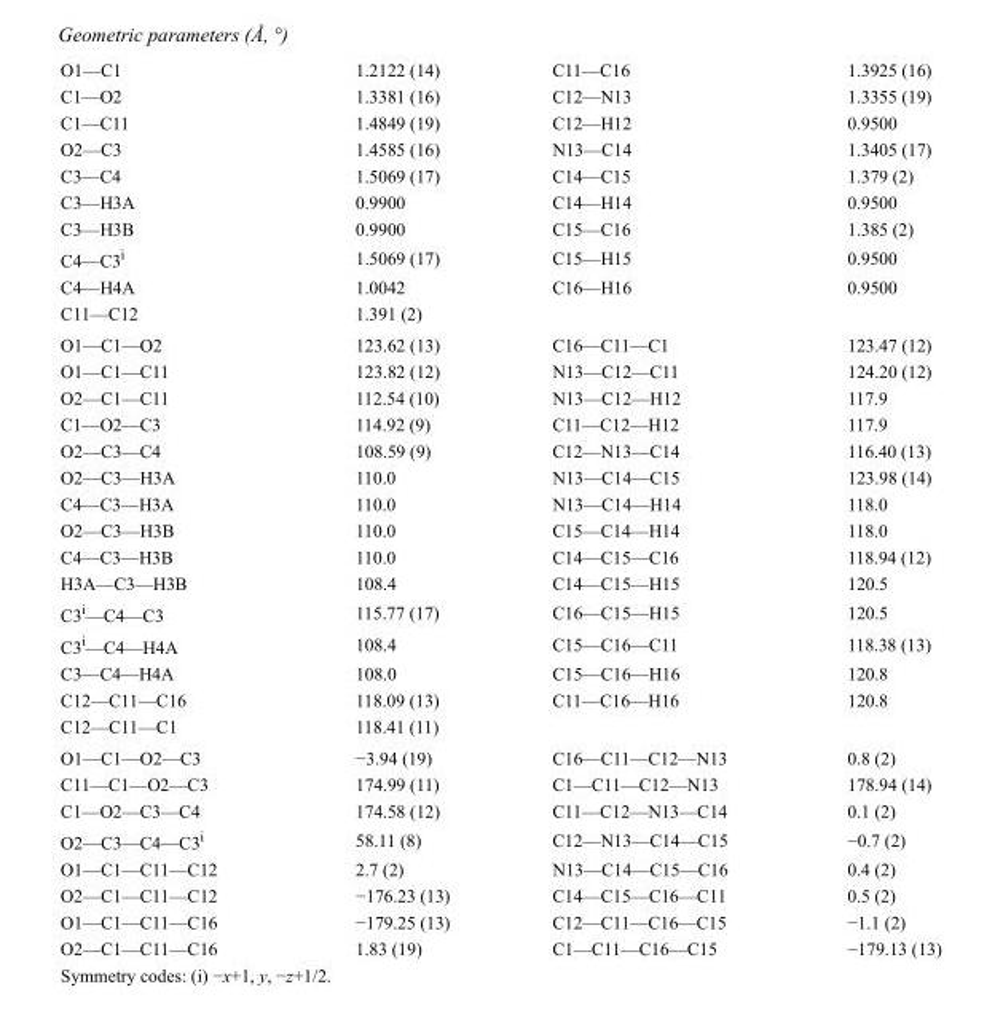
<table><tbody><tr><td>O1—C1</td><td>1.2122 (14)</td><td>C11—C16</td><td>1.3925 (16)</td></tr><tr><td>C1—O2</td><td>1.3381 (16)</td><td>C12—N13</td><td>1.3355 (19)</td></tr><tr><td>C1—C11</td><td>1.4849 (19)</td><td>C12—H12</td><td>0.9500</td></tr><tr><td>O2—C3</td><td>1.4585 (16)</td><td>N13—C14</td><td>1.3405 (17)</td></tr><tr><td>C3—C4</td><td>1.5069 (17)</td><td>C14—C15</td><td>1.379 (2)</td></tr><tr><td>C3—H3A</td><td>0.9900</td><td>C14—H14</td><td>0.9500</td></tr><tr><td>C3—H3B</td><td>0.9900</td><td>C15—C16</td><td>1.385 (2)</td></tr><tr><td>C4—C3<sup>i</sup></td><td>1.5069 (17)</td><td>C15—H15</td><td>0.9500</td></tr><tr><td>C4—H4A</td><td>1.0042</td><td>C16—H16</td><td>0.9500</td></tr><tr><td>C11—C12</td><td>1.391 (2)</td><td></td><td></td></tr><tr><td>O1—C1—O2</td><td>123.62 (13)</td><td>C16—C11—C1</td><td>123.47 (12)</td></tr><tr><td>O1—C1—C11</td><td>123.82 (12)</td><td>N13—C12—C11</td><td>124.20 (12)</td></tr><tr><td>O2—C1—C11</td><td>112.54 (10)</td><td>N13—C12—H12</td><td>117.9</td></tr><tr><td>C1—O2—C3</td><td>114.92 (9)</td><td>C11—C12—H12</td><td>117.9</td></tr><tr><td>O2—C3—C4</td><td>108.59 (9)</td><td>C12—N13—C14</td><td>116.40 (13)</td></tr><tr><td>O2—C3—H3A</td><td>110.0</td><td>N13—C14—C15</td><td>123.98 (14)</td></tr><tr><td>C4—C3—H3A</td><td>110.0</td><td>N13—C14—H14</td><td>118.0</td></tr><tr><td>O2—C3—H3B</td><td>110.0</td><td>C15—C14—H14</td><td>118.0</td></tr><tr><td>C4—C3—H3B</td><td>110.0</td><td>C14—C15—C16</td><td>118.94 (12)</td></tr><tr><td>H3A—C3—H3B</td><td>108.4</td><td>C14—C15—H15</td><td>120.5</td></tr><tr><td>C3<sup>i</sup>—C4—C3</td><td>115.77 (17)</td><td>C16—C15—H15</td><td>120.5</td></tr><tr><td>C3<sup>i</sup>—C4—H4A</td><td>108.4</td><td>C15—C16—C11</td><td>118.38 (13)</td></tr><tr><td>C3—C4—H4A</td><td>108.0</td><td>C15—C16—H16</td><td>120.8</td></tr><tr><td>C12—C11—C16</td><td>118.09 (13)</td><td>C11—C16—H16</td><td>120.8</td></tr><tr><td>C12—C11—C1</td><td>118.41 (11)</td><td></td><td></td></tr><tr><td>O1—C1—O2—C3</td><td>−3.94 (19)</td><td>C16—C11—C12—N13</td><td>0.8 (2)</td></tr><tr><td>C11—C1—O2—C3</td><td>174.99 (11)</td><td>C1—C11—C12—N13</td><td>178.94 (14)</td></tr><tr><td>C1—O2—C3—C4</td><td>174.58 (12)</td><td>C11—C12—N13—C14</td><td>0.1 (2)</td></tr><tr><td>O2—C3—C4—C3<sup>i</sup></td><td>58.11 (8)</td><td>C12—N13—C14—C15</td><td>−0.7 (2)</td></tr><tr><td>O1—C1—C11—C12</td><td>2.7 (2)</td><td>N13—C14—C15—C16</td><td>0.4 (2)</td></tr><tr><td>O2—C1—C11—C12</td><td>−176.23 (13)</td><td>C14—C15—C16—C11</td><td>0.5 (2)</td></tr><tr><td>O1—C1—C11—C16</td><td>−179.25 (13)</td><td>C12—C11—C16—C15</td><td>−1.1 (2)</td></tr><tr><td>O2—C1—C11—C16</td><td>1.83 (19)</td><td>C1—C11—C16—C15</td><td>−179.13 (13)</td></tr></tbody></table>